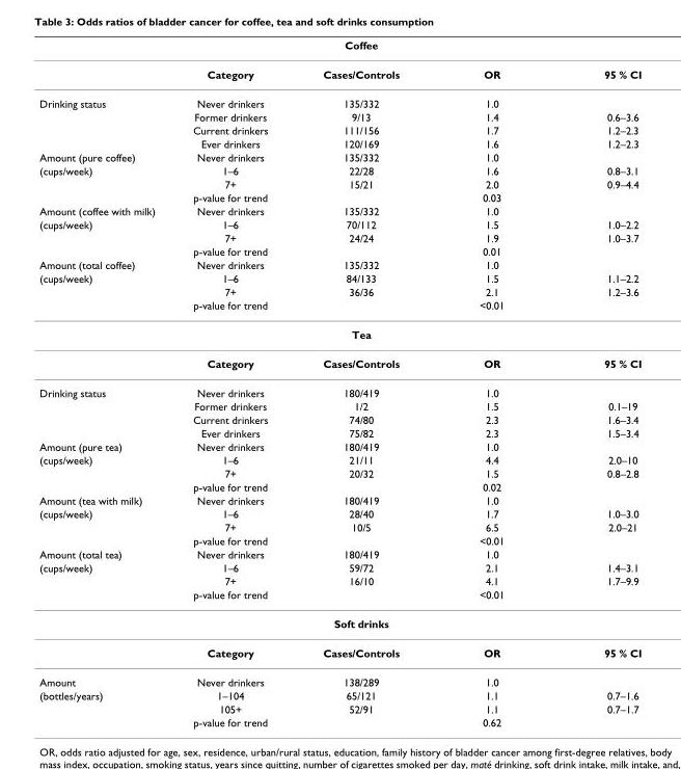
<table><thead><tr><td colspan="5">Coffee</td></tr><tr><td></td><td>Category</td><td>Cases/Controls</td><td>OR</td><td>95 % CI</td></tr></thead><tbody><tr><td rowspan="4">Drinking status</td><td>Never drinkers</td><td>135/332</td><td>1.0</td><td></td></tr><tr><td>Former drinkers</td><td>9/13</td><td>1.4</td><td>0.6–3.6</td></tr><tr><td>Current drinkers</td><td>111/156</td><td>1.7</td><td>1.2–2.3</td></tr><tr><td>Ever drinkers</td><td>120/169</td><td>1.6</td><td>1.2–2.3</td></tr><tr><td>Amount (pure coffee)</td><td>Never drinkers</td><td>135/332</td><td>1.0</td><td></td></tr><tr><td rowspan="3">(cups/week)</td><td>1–6</td><td>22/28</td><td>1.6</td><td>0.8–3.1</td></tr><tr><td>7+</td><td>15/21</td><td>2.0</td><td>0.9–4.4</td></tr><tr><td>p-value for trend</td><td></td><td>0.03</td><td></td></tr><tr><td>Amount (coffee with milk)</td><td>Never drinkers</td><td>135/332</td><td>1.0</td><td></td></tr><tr><td rowspan="3">(cups/week)</td><td>1–6</td><td>70/112</td><td>1.5</td><td>1.0–2.2</td></tr><tr><td>7+</td><td>24/24</td><td>1.9</td><td>1.0–3.7</td></tr><tr><td>p-value for trend</td><td></td><td>0.01</td><td></td></tr><tr><td>Amount (total coffee)</td><td>Never drinkers</td><td>135/332</td><td>1.0</td><td></td></tr><tr><td rowspan="3">(cups/week)</td><td>1–6</td><td>84/133</td><td>1.5</td><td>1.1–2.2</td></tr><tr><td>7+</td><td>36/36</td><td>2.1</td><td>1.2–3.6</td></tr><tr><td>p-value for trend</td><td></td><td>&lt;0.01</td><td></td></tr><tr><td colspan="5">Tea</td></tr><tr><td></td><td>Category</td><td>Cases/Controls</td><td>OR</td><td>95 % CI</td></tr><tr><td rowspan="4">Drinking status</td><td>Never drinkers</td><td>180/419</td><td>1.0</td><td></td></tr><tr><td>Former drinkers</td><td>1/2</td><td>1.5</td><td>0.1–19</td></tr><tr><td>Current drinkers</td><td>74/80</td><td>2.3</td><td>1.6–3.4</td></tr><tr><td>Ever drinkers</td><td>75/82</td><td>2.3</td><td>1.5–3.4</td></tr><tr><td>Amount (pure tea)</td><td>Never drinkers</td><td>180/419</td><td>1.0</td><td></td></tr><tr><td rowspan="3">(cups/week)</td><td>1–6</td><td>21/11</td><td>4.4</td><td>2.0–10</td></tr><tr><td>7+</td><td>20/32</td><td>1.5</td><td>0.8–2.8</td></tr><tr><td>p-value for trend</td><td></td><td>0.02</td><td></td></tr><tr><td>Amount (tea with milk)</td><td>Never drinkers</td><td>180/419</td><td>1.0</td><td></td></tr><tr><td rowspan="3">(cups/week)</td><td>1–6</td><td>28/40</td><td>1.7</td><td>1.0–3.0</td></tr><tr><td>7+</td><td>10/5</td><td>6.5</td><td>2.0–21</td></tr><tr><td>p-value for trend</td><td></td><td>&lt;0.01</td><td></td></tr><tr><td>Amount (total tea)</td><td>Never drinkers</td><td>180/419</td><td>1.0</td><td></td></tr><tr><td rowspan="3">(cups/week)</td><td>1–6</td><td>59/72</td><td>2.1</td><td>1.4–3.1</td></tr><tr><td>7+</td><td>16/10</td><td>4.1</td><td>1.7–9.9</td></tr><tr><td>p-value for trend</td><td></td><td>&lt;0.01</td><td></td></tr><tr><td colspan="5">Soft drinks</td></tr><tr><td></td><td>Category</td><td>Cases/Controls</td><td>OR</td><td>95 % CI</td></tr><tr><td>Amount</td><td>Never drinkers</td><td>138/289</td><td>1.0</td><td></td></tr><tr><td rowspan="3">(bottles/years)</td><td>1–104</td><td>65/121</td><td>1.1</td><td>0.7–1.6</td></tr><tr><td>105+</td><td>52/91</td><td>1.1</td><td>0.7–1.7</td></tr><tr><td>p-value for trend</td><td></td><td>0.62</td><td></td></tr></tbody></table>